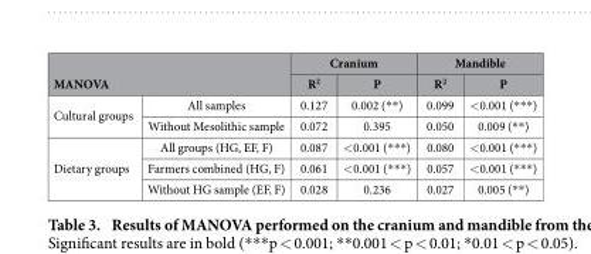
<table><thead><tr><td></td><td></td><td colspan="2">Cranium</td><td colspan="2">Mandible</td></tr><tr><td colspan="2">MANOVA</td><td>R<sup>2</sup></td><td>P</td><td>R<sup>2</sup></td><td>P</td></tr></thead><tbody><tr><td rowspan="2">Cultural groups</td><td>All samples</td><td>0.127</td><td>0.002 (* * )</td><td>0.099</td><td>&lt; 0.001 (* * * )</td></tr><tr><td>Without Mesolithic sample</td><td>0.072</td><td>0.395</td><td>0.050</td><td>0.009 (* * )</td></tr><tr><td rowspan="3">Dietary groups</td><td>All groups (HG, EF, F)</td><td>0.087</td><td>&lt; 0.001 (* * * )</td><td>0.080</td><td>&lt; 0.001 (* * * )</td></tr><tr><td>Farmers combined (HG, F)</td><td>0.061</td><td>&lt; 0.001 (* * * )</td><td>0.057</td><td>&lt; 0.001 (* * * )</td></tr><tr><td>Without HG sample (EF, F)</td><td>0.028</td><td>0.236</td><td>0.027</td><td>0.005 (* * )</td></tr></tbody></table>